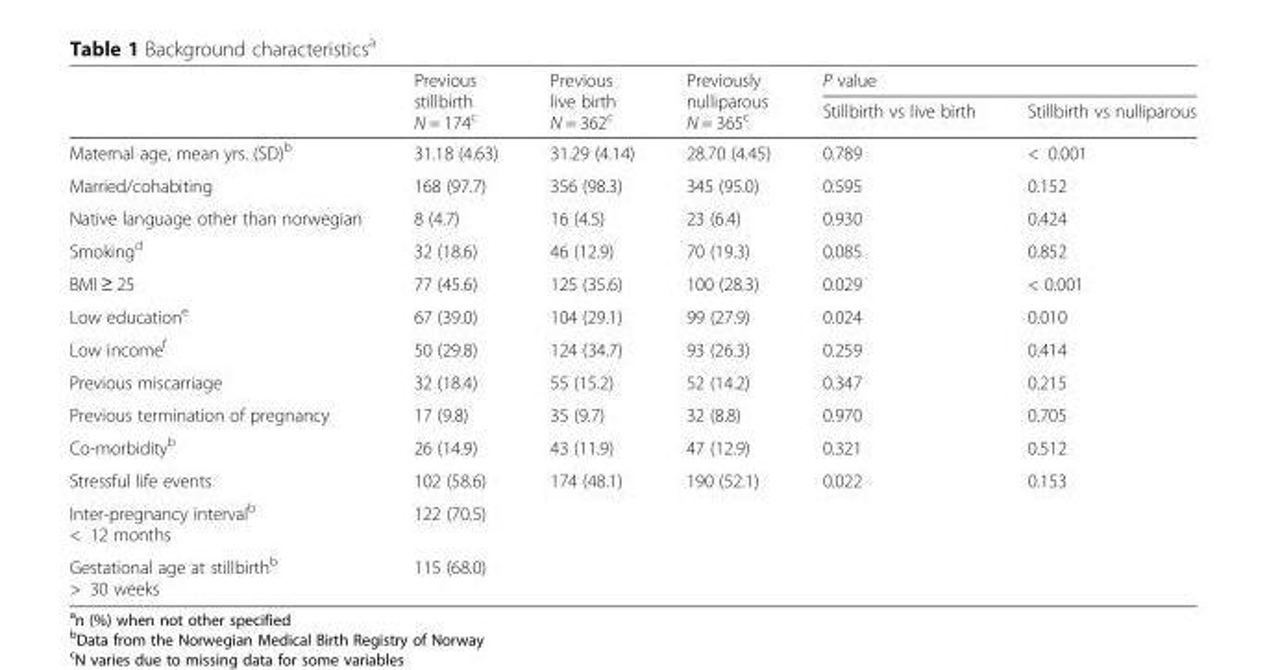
<table><thead><tr><td rowspan="2"></td><td rowspan="2">Previous stillbirth N = 174<sup>c</sup></td><td rowspan="2">Previous live birth N = 362<sup>c</sup></td><td rowspan="2">Previously nulliparous N = 365<sup>c</sup></td><td colspan="2">P value</td></tr><tr><td>Stillbirth vs live birth</td><td>Stillbirth vs nulliparous</td></tr></thead><tbody><tr><td>Maternal age, mean yrs. (SD)<sup>b</sup></td><td>31.18 (4.63)</td><td>31.29 (4.14)</td><td>28.70 (4.45)</td><td>0.789</td><td>&lt; 0.001</td></tr><tr><td>Married/cohabiting</td><td>168 (97.7)</td><td>356 (98.3)</td><td>345 (95.0)</td><td>0.595</td><td>0.152</td></tr><tr><td>Native language other than norwegian</td><td>8 (4.7)</td><td>16 (4.5)</td><td>23 (6.4)</td><td>0.930</td><td>0.424</td></tr><tr><td>Smoking<sup>d</sup></td><td>32 (18.6)</td><td>46 (12.9)</td><td>70 (19.3)</td><td>0.085</td><td>0.852</td></tr><tr><td>BMI ≥ 25</td><td>77 (45.6)</td><td>125 (35.6)</td><td>100 (28.3)</td><td>0.029</td><td>&lt; 0.001</td></tr><tr><td>Low education<sup>e</sup></td><td>67 (39.0)</td><td>104 (29.1)</td><td>99 (27.9)</td><td>0.024</td><td>0.010</td></tr><tr><td>Low income<sup>f</sup></td><td>50 (29.8)</td><td>124 (34.7)</td><td>93 (26.3)</td><td>0.259</td><td>0.414</td></tr><tr><td>Previous miscarriage</td><td>32 (18.4)</td><td>55 (15.2)</td><td>52 (14.2)</td><td>0.347</td><td>0.215</td></tr><tr><td>Previous termination of pregnancy</td><td>17 (9.8)</td><td>35 (9.7)</td><td>32 (8.8)</td><td>0.970</td><td>0.705</td></tr><tr><td>Co-morbidity<sup>b</sup></td><td>26 (14.9)</td><td>43 (11.9)</td><td>47 (12.9)</td><td>0.321</td><td>0.512</td></tr><tr><td>Stressful life events</td><td>102 (58.6)</td><td>174 (48.1)</td><td>190 (52.1)</td><td>0.022</td><td>0.153</td></tr><tr><td>Inter-pregnancy interval<sup>b</sup> &lt; 12 months</td><td>122 (70.5)</td><td></td><td></td><td></td><td></td></tr><tr><td>Gestational age at stillbirth<sup>b</sup> &gt; 30 weeks</td><td>115 (68.0)</td><td></td><td></td><td></td><td></td></tr></tbody></table>